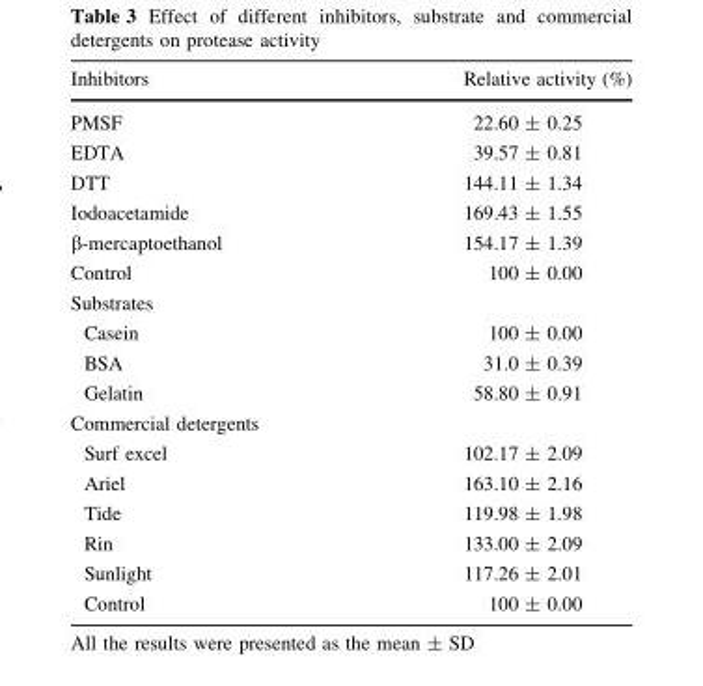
<table><thead><tr><td>Inhibitors</td><td>Relative activity (%)</td></tr></thead><tbody><tr><td>PMSF</td><td>22.60 ± 0.25</td></tr><tr><td>EDTA</td><td>39.57 ± 0.81</td></tr><tr><td>DTT</td><td>144.11 ± 1.34</td></tr><tr><td>Iodoacetamide</td><td>169.43 ± 1.55</td></tr><tr><td>β-mercaptoethanol</td><td>154.17 ± 1.39</td></tr><tr><td>Control</td><td>100 ± 0.00</td></tr><tr><td colspan="2">Substrates</td></tr><tr><td>Casein</td><td>100 ± 0.00</td></tr><tr><td>BSA</td><td>31.0 ± 0.39</td></tr><tr><td>Gelatin</td><td>58.80 ± 0.91</td></tr><tr><td colspan="2">Commercial detergents</td></tr><tr><td>Surf excel</td><td>102.17 ± 2.09</td></tr><tr><td>Ariel</td><td>163.10 ± 2.16</td></tr><tr><td>Tide</td><td>119.98 ± 1.98</td></tr><tr><td>Rin</td><td>133.00 ± 2.09</td></tr><tr><td>Sunlight</td><td>117.26 ± 2.01</td></tr><tr><td>Control</td><td>100 ± 0.00</td></tr></tbody></table>